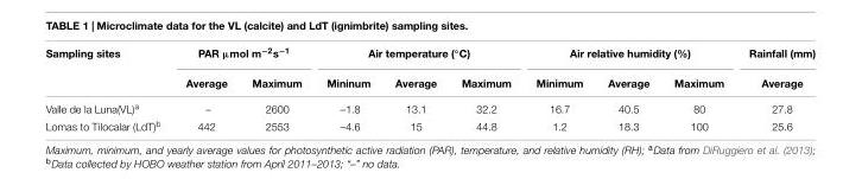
<table><thead><tr><td rowspan="2">Sampling sites</td><td colspan="2">PAR µmol m<sup>−2</sup>s<sup>−1</sup></td><td colspan="3">Air temperature (◦C)</td><td colspan="3">Air relative humidity (%)</td><td rowspan="2">Rainfall (mm) Average</td></tr><tr><td>Average</td><td>Maximum</td><td>Mininum</td><td>Average</td><td>Maximum</td><td>Minimum</td><td>Average</td><td>Maximum</td></tr></thead><tbody><tr><td>Valle de la Luna(VL)<sup>a</sup></td><td>–</td><td>2600</td><td>–1.8</td><td>13.1</td><td>32.2</td><td>16.7</td><td>40.5</td><td>80</td><td>27.8</td></tr><tr><td>Lomas to Tilocalar (LdT)<sup>b</sup></td><td>442</td><td>2553</td><td>–4.6</td><td>15</td><td>44.8</td><td>1.2</td><td>18.3</td><td>100</td><td>25.6</td></tr></tbody></table>